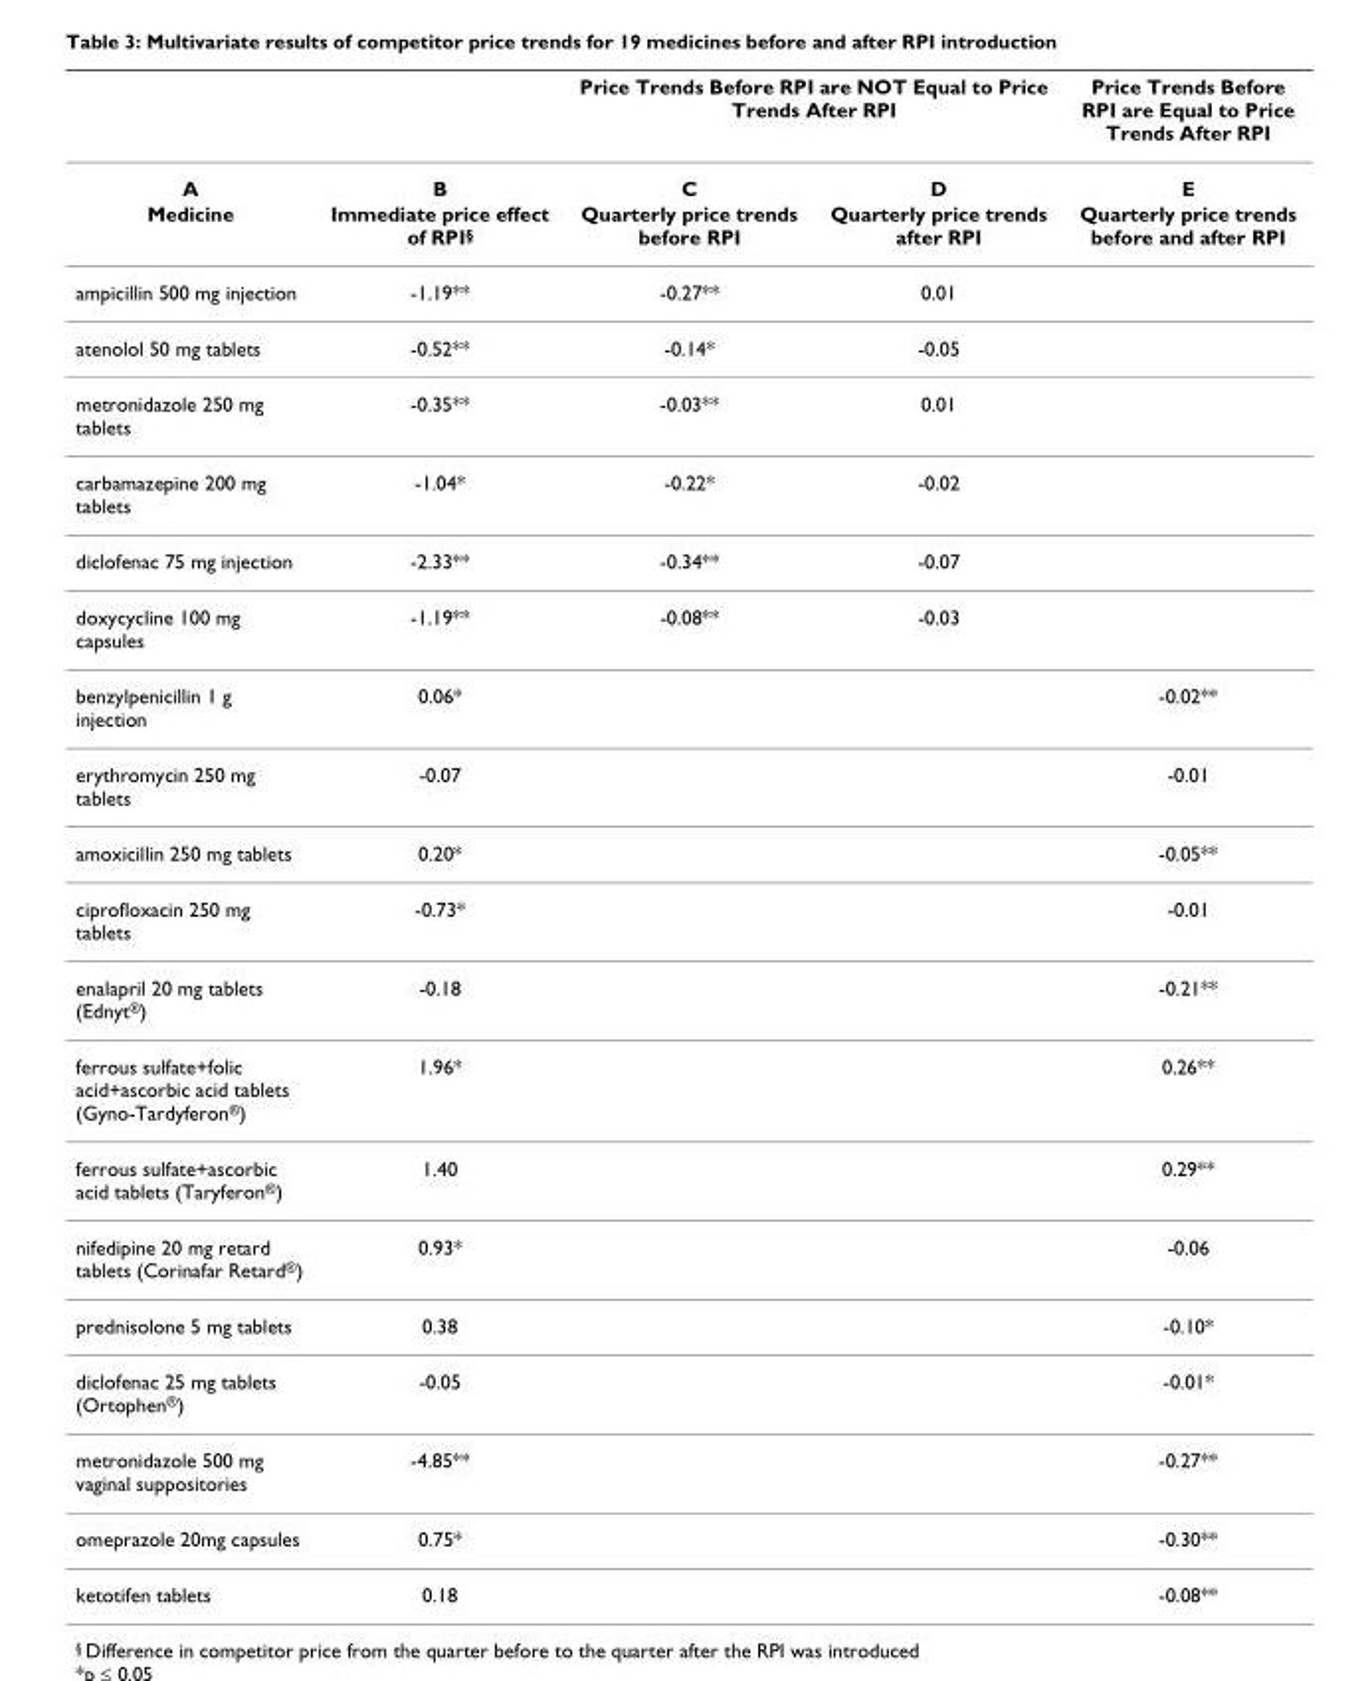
<table><thead><tr><td rowspan="2">A</td><td rowspan="2">B</td><td colspan="2">Price Trends Before RPI are NOT Equal to Price Trends After RPI</td><td rowspan="2">Price Trends Before RPI are Equal to Price Trends After RPI E</td></tr><tr><td>C</td><td>D</td></tr></thead><tbody><tr><td>Medicine</td><td>Immediate price effect of RPI<sup>§</sup></td><td>Quarterly price trends before RPI</td><td>Quarterly price trends after RPI</td><td>Quarterly price trends before and after RPI</td></tr><tr><td>ampicillin 500 mg injection</td><td>-1.19**</td><td>-0.27**</td><td>0.01</td><td></td></tr><tr><td>atenolol 50 mg tablets</td><td>-0.52**</td><td>-0.14*</td><td>-0.05</td><td></td></tr><tr><td>metronidazole 250 mg tablets</td><td>-0.35**</td><td>-0.03**</td><td>0.01</td><td></td></tr><tr><td>carbamazepine 200 mg tablets</td><td>-1.04*</td><td>-0.22*</td><td>-0.02</td><td></td></tr><tr><td>diclofenac 75 mg injection</td><td>-2.33**</td><td>-0.34**</td><td>-0.07</td><td></td></tr><tr><td>doxycycline 100 mg capsules</td><td>-1.19**</td><td>-0.08**</td><td>-0.03</td><td></td></tr><tr><td>benzylpenicillin 1 g injection</td><td>0.06*</td><td></td><td></td><td>-0.02**</td></tr><tr><td>erythromycin 250 mg tablets</td><td>-0.07</td><td></td><td></td><td>-0.01</td></tr><tr><td>amoxicillin 250 mg tablets</td><td>0.20*</td><td></td><td></td><td>-0.05**</td></tr><tr><td>ciprofloxacin 250 mg tablets</td><td>-0.73*</td><td></td><td></td><td>-0.01</td></tr><tr><td>enalapril 20 mg tablets (Ednyt<sup>®</sup>)</td><td>-0.18</td><td></td><td></td><td>-0.21**</td></tr><tr><td>ferrous sulfate+folic acid+ascorbic acid tablets (Gyno-Tardyferon<sup>®</sup>)</td><td>1.96*</td><td></td><td></td><td>0.26**</td></tr><tr><td>ferrous sulfate+ascorbic acid tablets (Taryferon<sup>®</sup>)</td><td>1.40</td><td></td><td></td><td>0.29**</td></tr><tr><td>nifedipine 20 mg retard tablets (Corinafar Retard<sup>®</sup>)</td><td>0.93*</td><td></td><td></td><td>-0.06</td></tr><tr><td>prednisolone 5 mg tablets</td><td>0.38</td><td></td><td></td><td>-0.10*</td></tr><tr><td>diclofenac 25 mg tablets (Ortophen<sup>®</sup>)</td><td>-0.05</td><td></td><td></td><td>-0.01*</td></tr><tr><td>metronidazole 500 mg vaginal suppositories</td><td>-4.85**</td><td></td><td></td><td>-0.27**</td></tr><tr><td>omeprazole 20mg capsules</td><td>0.75*</td><td></td><td></td><td>-0.30**</td></tr><tr><td>ketotifen tablets</td><td>0.18</td><td></td><td></td><td>-0.08**</td></tr></tbody></table>